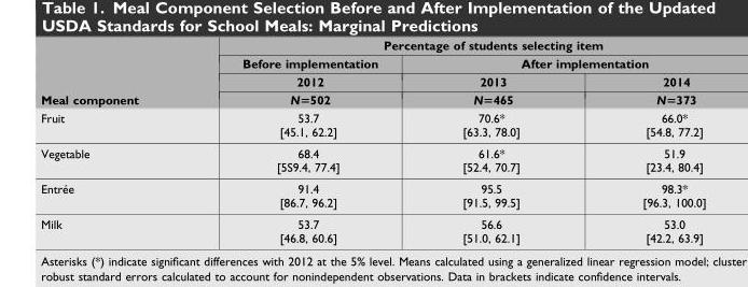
<table><thead><tr><td rowspan="4">Meal component</td><td colspan="3">Percentage of students selecting item</td></tr><tr><td rowspan="3">Before implementation 2012 N=502</td><td colspan="2">After implementation</td></tr><tr><td rowspan="2">2013 N=465</td><td rowspan="2">2014 N=373</td></tr><tr></tr></thead><tbody><tr><td>Fruit</td><td>53.7 [45.1, 62.2]</td><td>70.6* [63.3, 78.0]</td><td>66.0* [54.8, 77.2]</td></tr><tr><td>Vegetable</td><td>68.4 [5S9.4, 77.4]</td><td>61.6* [52.4, 70.7]</td><td>51.9 [23.4, 80.4]</td></tr><tr><td>Entre´e</td><td>91.4 [86.7, 96.2]</td><td>95.5 [91.5, 99.5]</td><td>98.3* [96.3, 100.0]</td></tr><tr><td>Milk</td><td>53.7 [46.8, 60.6]</td><td>56.6 [51.0, 62.1]</td><td>53.0 [42.2, 63.9]</td></tr></tbody></table>